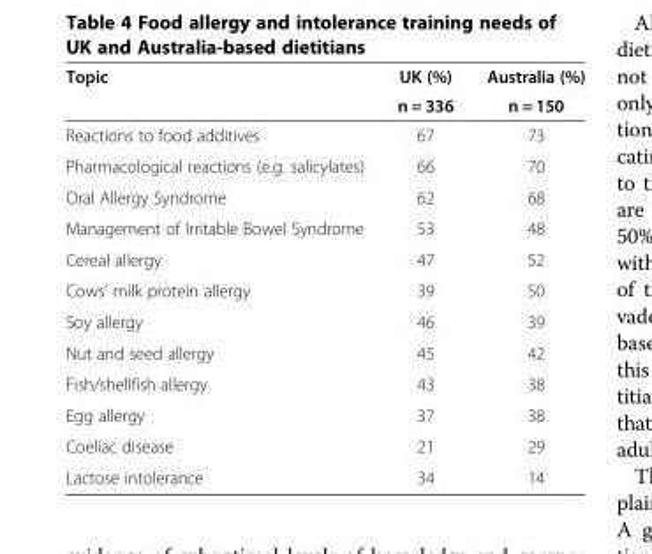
<table><thead><tr><td rowspan="2">Topic</td><td rowspan="2">UK (%) n = 336</td><td rowspan="2">Australia (%) n = 150</td></tr><tr></tr></thead><tbody><tr><td>Reactions to food additives</td><td>67</td><td>73</td></tr><tr><td>Pharmacological reactions (e.g. salicylates)</td><td>66</td><td>70</td></tr><tr><td>Oral Allergy Syndrome</td><td>62</td><td>68</td></tr><tr><td>Management of Irritable Bowel Syndrome</td><td>53</td><td>48</td></tr><tr><td>Cereal allergy</td><td>47</td><td>52</td></tr><tr><td>Cows&#x27; milk protein allergy</td><td>39</td><td>50</td></tr><tr><td>Soy allergy</td><td>46</td><td>39</td></tr><tr><td>Nut and seed allergy</td><td>45</td><td>42</td></tr><tr><td>Fish/shellfish allergy</td><td>43</td><td>38</td></tr><tr><td>Egg allergy</td><td>37</td><td>38</td></tr><tr><td>Coeliac disease</td><td>21</td><td>29</td></tr><tr><td>Lactose intolerance</td><td>34</td><td>14</td></tr></tbody></table>